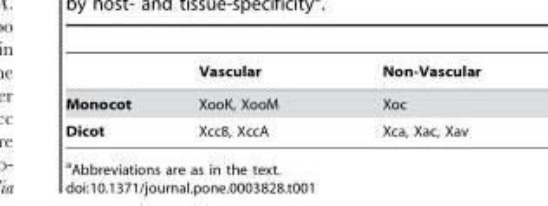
<table><thead><tr><td></td><td>Vascular</td><td>Non-Vascular</td></tr></thead><tbody><tr><td>Monocot</td><td>XooK, XooM</td><td>Xoc</td></tr><tr><td>Dicot</td><td>Xcc8, XccA</td><td>Xca, Xac, Xav</td></tr></tbody></table>